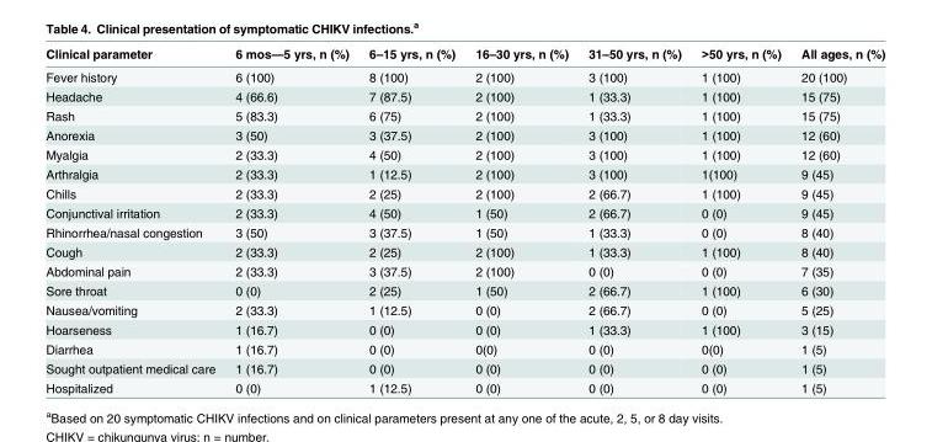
<table><thead><tr><td>Clinical parameter</td><td>6 mos—5 yrs, n (%)</td><td>6–15 yrs, n (%)</td><td>16–30 yrs, n (%)</td><td>31–50 yrs, n (%)</td><td>&gt;50 yrs, n (%)</td><td>All ages, n (%)</td></tr></thead><tbody><tr><td>Fever history</td><td>6 (100)</td><td>8 (100)</td><td>2 (100)</td><td>3 (100)</td><td>1 (100)</td><td>20 (100)</td></tr><tr><td>Headache</td><td>4 (66.6)</td><td>7 (87.5)</td><td>2 (100)</td><td>1 (33.3)</td><td>1 (100)</td><td>15 (75)</td></tr><tr><td>Rash</td><td>5 (83.3)</td><td>6 (75)</td><td>2 (100)</td><td>1 (33.3)</td><td>1 (100)</td><td>15 (75)</td></tr><tr><td>Anorexia</td><td>3 (50)</td><td>3 (37.5)</td><td>2 (100)</td><td>3 (100)</td><td>1 (100)</td><td>12 (60)</td></tr><tr><td>Myalgia</td><td>2 (33.3)</td><td>4 (50)</td><td>2 (100)</td><td>3 (100)</td><td>1 (100)</td><td>12 (60)</td></tr><tr><td>Arthralgia</td><td>2 (33.3)</td><td>1 (12.5)</td><td>2 (100)</td><td>3 (100)</td><td>1(100)</td><td>9 (45)</td></tr><tr><td>Chills</td><td>2 (33.3)</td><td>2 (25)</td><td>2 (100)</td><td>2 (66.7)</td><td>1 (100)</td><td>9 (45)</td></tr><tr><td>Conjunctival irritation</td><td>2 (33.3)</td><td>4 (50)</td><td>1 (50)</td><td>2 (66.7)</td><td>0 (0)</td><td>9 (45)</td></tr><tr><td>Rhinorrhea/nasal congestion</td><td>3 (50)</td><td>3 (37.5)</td><td>1 (50)</td><td>1 (33.3)</td><td>0 (0)</td><td>8 (40)</td></tr><tr><td>Cough</td><td>2 (33.3)</td><td>2 (25)</td><td>2 (100)</td><td>1 (33.3)</td><td>1 (100)</td><td>8 (40)</td></tr><tr><td>Abdominal pain</td><td>2 (33.3)</td><td>3 (37.5)</td><td>2 (100)</td><td>0 (0)</td><td>0 (0)</td><td>7 (35)</td></tr><tr><td>Sore throat</td><td>0 (0)</td><td>2 (25)</td><td>1 (50)</td><td>2 (66.7)</td><td>1 (100)</td><td>6 (30)</td></tr><tr><td>Nausea/vomiting</td><td>2 (33.3)</td><td>1 (12.5)</td><td>0 (0)</td><td>2 (66.7)</td><td>0 (0)</td><td>5 (25)</td></tr><tr><td>Hoarseness</td><td>1 (16.7)</td><td>0 (0)</td><td>0 (0)</td><td>1 (33.3)</td><td>1 (100)</td><td>3 (15)</td></tr><tr><td>Diarrhea</td><td>1 (16.7)</td><td>0 (0)</td><td>0(0)</td><td>0 (0)</td><td>0(0)</td><td>1 (5)</td></tr><tr><td>Sought outpatient medical care</td><td>1 (16.7)</td><td>0 (0)</td><td>0 (0)</td><td>0 (0)</td><td>0 (0)</td><td>1 (5)</td></tr><tr><td>Hospitalized</td><td>0 (0)</td><td>1 (12.5)</td><td>0 (0)</td><td>0 (0)</td><td>0 (0)</td><td>1 (5)</td></tr></tbody></table>